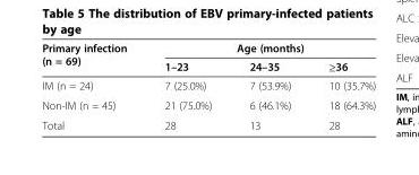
<table><thead><tr><td rowspan="2">Primary infection (n = 69)</td><td colspan="3">Age (months)</td></tr><tr><td>1–23</td><td>24–35</td><td>≥36</td></tr></thead><tbody><tr><td>IM (n = 24)</td><td>7 (25.0%)</td><td>7 (53.9%)</td><td>10 (35.7%)</td></tr><tr><td>Non-IM (n = 45)</td><td>21 (75.0%)</td><td>6 (46.1%)</td><td>18 (64.3%)</td></tr><tr><td>Total</td><td>28</td><td>13</td><td>28</td></tr></tbody></table>